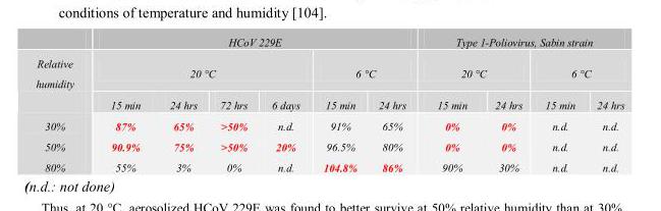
<table><thead><tr><td rowspan="3">Relative humidity</td><td colspan="6">HCoV 229E</td><td colspan="4">Type 1-Poliovirus, Sabin strain</td></tr><tr><td colspan="4">20 °C</td><td colspan="2">6 °C</td><td colspan="2">20 °C</td><td colspan="2">6 °C</td></tr><tr><td>15 min</td><td>24 hrs</td><td>72 hrs</td><td>6 days</td><td>15 min</td><td>24 hrs</td><td>15 min</td><td>24 hrs</td><td>15 min</td><td>24 hrs</td></tr></thead><tbody><tr><td>30%</td><td>87%</td><td>65%</td><td>&gt;50%</td><td>n.d.</td><td>91%</td><td>65%</td><td>0%</td><td>0%</td><td>n.d.</td><td>n.d.</td></tr><tr><td>50%</td><td>90.9%</td><td>75%</td><td>&gt;50%</td><td>20%</td><td>96.5%</td><td>80%</td><td>0%</td><td>0%</td><td>n.d.</td><td>n.d.</td></tr><tr><td>80%</td><td>55%</td><td>3%</td><td>0%</td><td>n.d.</td><td>104.8%</td><td>86%</td><td>90%</td><td>30%</td><td>n.d.</td><td>n.d.</td></tr></tbody></table>